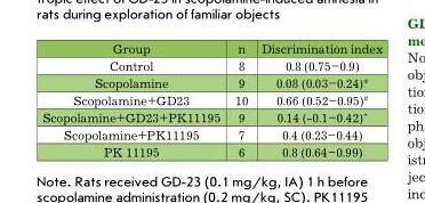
<table><thead><tr><td>Group</td><td>n</td><td>Discrimination index</td></tr></thead><tbody><tr><td>Control</td><td>8</td><td>0.8 (0.75–0.9)</td></tr><tr><td>Scopolamine</td><td>9</td><td>0.08 (0.03–0.24)*</td></tr><tr><td>Scopolamine+GD23</td><td>10</td><td>0.66 (0.52–0.95)<sup>#</sup></td></tr><tr><td>Scopolamine+GD23+PK11195</td><td>9</td><td>0.14 (-0.1–0.42)<sup>^</sup></td></tr><tr><td>Scopolamine+PK11195</td><td>7</td><td>0.4 (0.23–0.44)</td></tr><tr><td>PK 11195</td><td>6</td><td>0.8 (0.64–0.99)</td></tr></tbody></table>